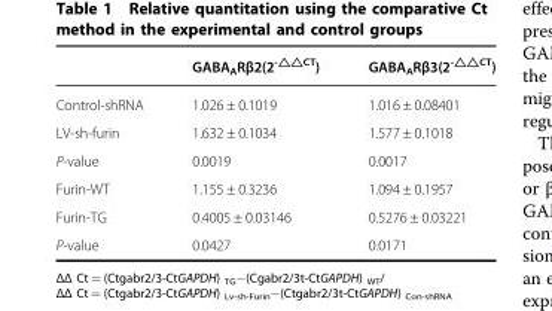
<table><thead><tr><td></td><td>GABA<sub>A</sub>Rβ2(2<sup>-△△CT</sup>)</td><td>GABA<sub>A</sub>Rβ3(2<sup>-△△CT</sup>)</td></tr></thead><tbody><tr><td>Control-shRNA</td><td>1.026 ± 0.1019</td><td>1.016 ± 0.08401</td></tr><tr><td>LV-sh-furin</td><td>1.632 ± 0.1034</td><td>1.577 ± 0.1018</td></tr><tr><td>P-value</td><td>0.0019</td><td>0.0017</td></tr><tr><td>Furin-WT</td><td>1.155 ± 0.3236</td><td>1.094 ± 0.1957</td></tr><tr><td>Furin-TG</td><td>0.4005 ± 0.03146</td><td>0.5276 ± 0.03221</td></tr><tr><td>P-value</td><td>0.0427</td><td>0.0171</td></tr></tbody></table>